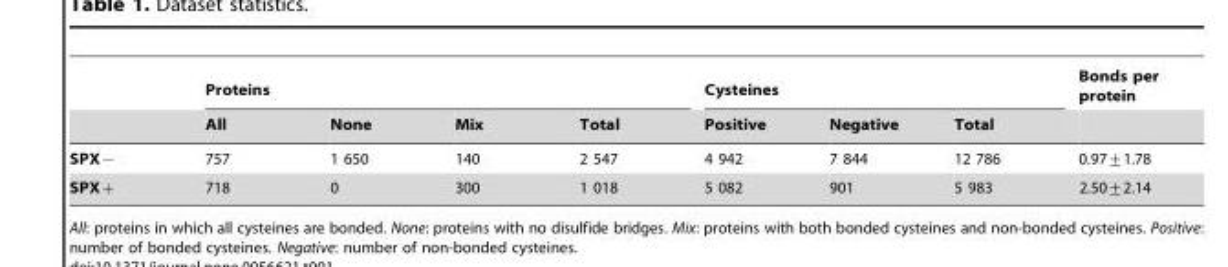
<table><thead><tr><td rowspan="2"></td><td colspan="4">Proteins</td><td colspan="3">Cysteines</td><td rowspan="2">Bonds per protein</td></tr><tr><td>All</td><td>None</td><td>Mix</td><td>Total</td><td>Positive</td><td>Negative</td><td>Total</td></tr></thead><tbody><tr><td>SPX{</td><td>757</td><td>1 650</td><td>140</td><td>2 547</td><td>4 942</td><td>7 844</td><td>12 786</td><td>0.97+1.78</td></tr><tr><td>SPXz</td><td>718</td><td>0</td><td>300</td><td>1 018</td><td>5 082</td><td>901</td><td>5 983</td><td>2.50+2.14</td></tr></tbody></table>